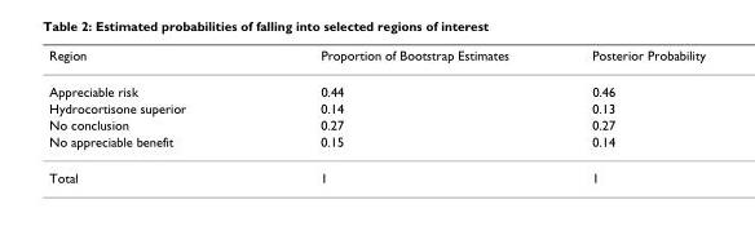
<table><thead><tr><td>Region</td><td>Proportion of Bootstrap Estimates</td><td>Posterior Probability</td></tr></thead><tbody><tr><td>Appreciable risk</td><td>0.44</td><td>0.46</td></tr><tr><td>Hydrocortisone superior</td><td>0.14</td><td>0.13</td></tr><tr><td>No conclusion</td><td>0.27</td><td>0.27</td></tr><tr><td>No appreciable benefit</td><td>0.15</td><td>0.14</td></tr><tr><td>Total</td><td>1</td><td>1</td></tr></tbody></table>